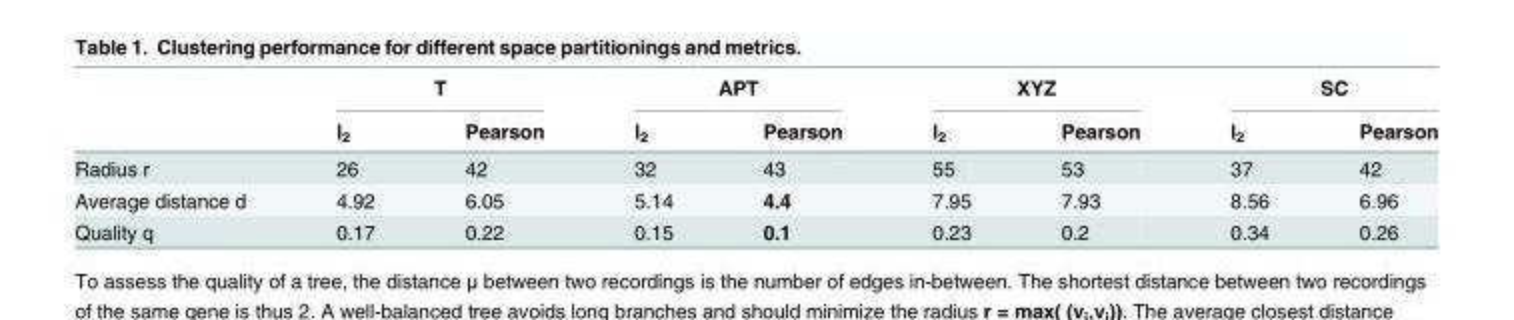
<table><thead><tr><td rowspan="2"></td><td colspan="2">T</td><td colspan="2">APT</td><td colspan="2">XYZ</td><td colspan="2">SC</td></tr><tr><td>l<sub>2</sub></td><td>Pearson</td><td>l<sub>2</sub></td><td>Pearson</td><td>l<sub>2</sub></td><td>Pearson</td><td>l<sub>2</sub></td><td>Pearson</td></tr></thead><tbody><tr><td>Radius r</td><td>26</td><td>42</td><td>32</td><td>43</td><td>55</td><td>53</td><td>37</td><td>42</td></tr><tr><td>Average distance d</td><td>4.92</td><td>6.05</td><td>5.14</td><td>4.4</td><td>7.95</td><td>7.93</td><td>8.56</td><td>6.96</td></tr><tr><td>Quality q</td><td>0.17</td><td>0.22</td><td>0.15</td><td>0.1</td><td>0.23</td><td>0.2</td><td>0.34</td><td>0.26</td></tr></tbody></table>